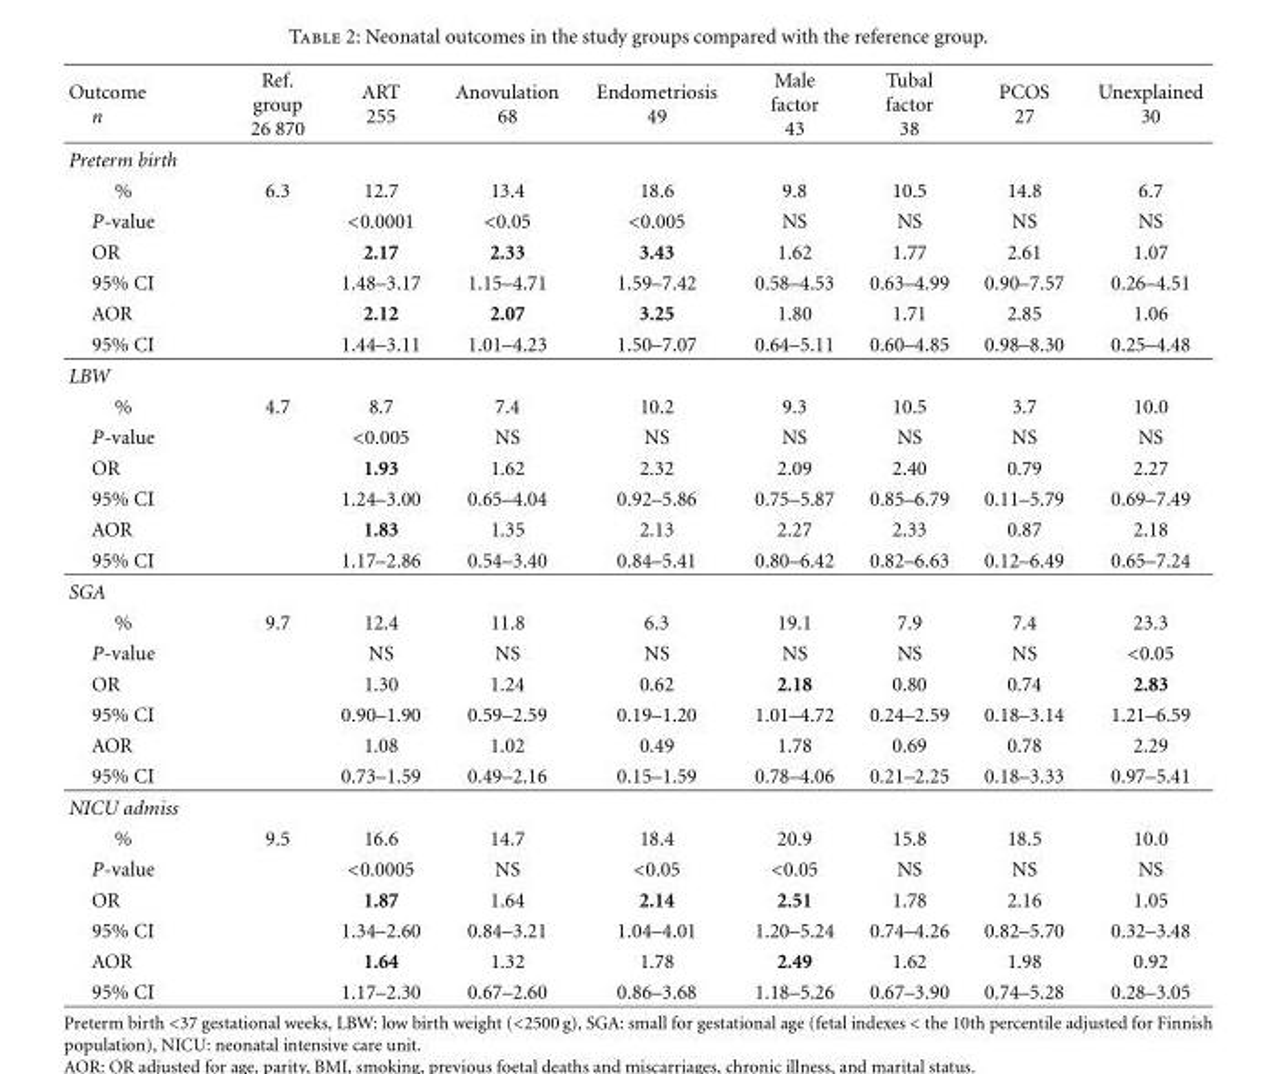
<table><thead><tr><td>Outcome n</td><td>Ref. group 26 870</td><td>ART 255</td><td>Anovulation 68</td><td>Endometriosis 49</td><td>Male factor 43</td><td>Tubal factor 38</td><td>PCOS 27</td><td>Unexplained 30</td></tr></thead><tbody><tr><td colspan="9">Preterm birth</td></tr><tr><td>%</td><td>6.3</td><td>12.7</td><td>13.4</td><td>18.6</td><td>9.8</td><td>10.5</td><td>14.8</td><td>6.7</td></tr><tr><td>P-value</td><td></td><td>&lt;0.0001</td><td>&lt;0.05</td><td>&lt;0.005</td><td>NS</td><td>NS</td><td>NS</td><td>NS</td></tr><tr><td>OR</td><td></td><td>2.17</td><td>2.33</td><td>3.43</td><td>1.62</td><td>1.77</td><td>2.61</td><td>1.07</td></tr><tr><td>95% CI</td><td></td><td>1.48–3.17</td><td>1.15–4.71</td><td>1.59–7.42</td><td>0.58–4.53</td><td>0.63–4.99</td><td>0.90–7.57</td><td>0.26–4.51</td></tr><tr><td>AOR</td><td></td><td>2.12</td><td>2.07</td><td>3.25</td><td>1.80</td><td>1.71</td><td>2.85</td><td>1.06</td></tr><tr><td>95% CI</td><td></td><td>1.44–3.11</td><td>1.01–4.23</td><td>1.50–7.07</td><td>0.64–5.11</td><td>0.60–4.85</td><td>0.98–8.30</td><td>0.25–4.48</td></tr><tr><td colspan="9">LBW</td></tr><tr><td>%</td><td>4.7</td><td>8.7</td><td>7.4</td><td>10.2</td><td>9.3</td><td>10.5</td><td>3.7</td><td>10.0</td></tr><tr><td>P-value</td><td></td><td>&lt;0.005</td><td>NS</td><td>NS</td><td>NS</td><td>NS</td><td>NS</td><td>NS</td></tr><tr><td>OR</td><td></td><td>1.93</td><td>1.62</td><td>2.32</td><td>2.09</td><td>2.40</td><td>0.79</td><td>2.27</td></tr><tr><td>95% CI</td><td></td><td>1.24–3.00</td><td>0.65–4.04</td><td>0.92–5.86</td><td>0.75–5.87</td><td>0.85–6.79</td><td>0.11–5.79</td><td>0.69–7.49</td></tr><tr><td>AOR</td><td></td><td>1.83</td><td>1.35</td><td>2.13</td><td>2.27</td><td>2.33</td><td>0.87</td><td>2.18</td></tr><tr><td>95% CI</td><td></td><td>1.17–2.86</td><td>0.54–3.40</td><td>0.84–5.41</td><td>0.80–6.42</td><td>0.82–6.63</td><td>0.12–6.49</td><td>0.65–7.24</td></tr><tr><td colspan="9">SGA</td></tr><tr><td>%</td><td>9.7</td><td>12.4</td><td>11.8</td><td>6.3</td><td>19.1</td><td>7.9</td><td>7.4</td><td>23.3</td></tr><tr><td>P-value</td><td></td><td>NS</td><td>NS</td><td>NS</td><td>NS</td><td>NS</td><td>NS</td><td>&lt;0.05</td></tr><tr><td>OR</td><td></td><td>1.30</td><td>1.24</td><td>0.62</td><td>2.18</td><td>0.80</td><td>0.74</td><td>2.83</td></tr><tr><td>95% CI</td><td></td><td>0.90–1.90</td><td>0.59–2.59</td><td>0.19–1.20</td><td>1.01–4.72</td><td>0.24–2.59</td><td>0.18–3.14</td><td>1.21–6.59</td></tr><tr><td>AOR</td><td></td><td>1.08</td><td>1.02</td><td>0.49</td><td>1.78</td><td>0.69</td><td>0.78</td><td>2.29</td></tr><tr><td>95% CI</td><td></td><td>0.73–1.59</td><td>0.49–2.16</td><td>0.15–1.59</td><td>0.78–4.06</td><td>0.21–2.25</td><td>0.18–3.33</td><td>0.97–5.41</td></tr><tr><td colspan="9">NICU admiss</td></tr><tr><td>%</td><td>9.5</td><td>16.6</td><td>14.7</td><td>18.4</td><td>20.9</td><td>15.8</td><td>18.5</td><td>10.0</td></tr><tr><td>P-value</td><td></td><td>&lt;0.0005</td><td>NS</td><td>&lt;0.05</td><td>&lt;0.05</td><td>NS</td><td>NS</td><td>NS</td></tr><tr><td>OR</td><td></td><td>1.87</td><td>1.64</td><td>2.14</td><td>2.51</td><td>1.78</td><td>2.16</td><td>1.05</td></tr><tr><td>95% CI</td><td></td><td>1.34–2.60</td><td>0.84–3.21</td><td>1.04–4.01</td><td>1.20–5.24</td><td>0.74–4.26</td><td>0.82–5.70</td><td>0.32–3.48</td></tr><tr><td>AOR</td><td></td><td>1.64</td><td>1.32</td><td>1.78</td><td>2.49</td><td>1.62</td><td>1.98</td><td>0.92</td></tr><tr><td>95% CI</td><td></td><td>1.17–2.30</td><td>0.67–2.60</td><td>0.86–3.68</td><td>1.18–5.26</td><td>0.67–3.90</td><td>0.74–5.28</td><td>0.28–3.05</td></tr></tbody></table>